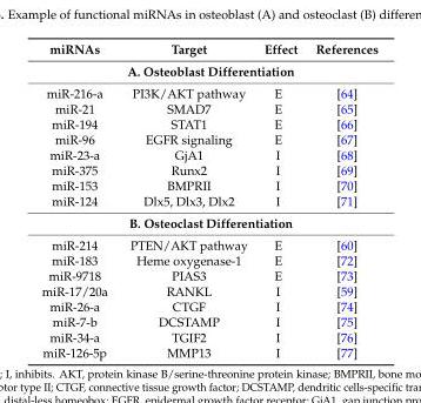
<table><thead><tr><td>miRNAs</td><td>Target</td><td>Effect</td><td>References</td></tr></thead><tbody><tr><td colspan="4">A. Osteoblast Differentiation</td></tr><tr><td>miR-216-a</td><td>PI3K/AKT pathway</td><td>E</td><td>[64]</td></tr><tr><td>miR-21</td><td>SMAD7</td><td>E</td><td>[65]</td></tr><tr><td>miR-194</td><td>STAT1</td><td>E</td><td>[66]</td></tr><tr><td>miR-96</td><td>EGFR signaling</td><td>E</td><td>[67]</td></tr><tr><td>miR-23-a</td><td>GjA1</td><td>I</td><td>[68]</td></tr><tr><td>miR-375</td><td>Runx2</td><td>I</td><td>[69]</td></tr><tr><td>miR-153</td><td>BMPRII</td><td>I</td><td>[70]</td></tr><tr><td>miR-124</td><td>Dlx5, Dlx3, Dlx2</td><td>I</td><td>[71]</td></tr><tr><td colspan="4">B. Osteoclast Differentiation</td></tr><tr><td>miR-214</td><td>PTEN/AKT pathway</td><td>E</td><td>[60]</td></tr><tr><td>miR-183</td><td>Heme oxygenase-1</td><td>E</td><td>[72]</td></tr><tr><td>miR-9718</td><td>PIAS3</td><td>E</td><td>[73]</td></tr><tr><td>miR-17/20a</td><td>RANKL</td><td>I</td><td>[59]</td></tr><tr><td>miR-26-a</td><td>CTGF</td><td>I</td><td>[74]</td></tr><tr><td>miR-7-b</td><td>DCSTAMP</td><td>I</td><td>[75]</td></tr><tr><td>miR-34-a</td><td>TGIF2</td><td>I</td><td>[76]</td></tr><tr><td>miR-126-5p</td><td>MMP13</td><td>I</td><td>[77]</td></tr></tbody></table>